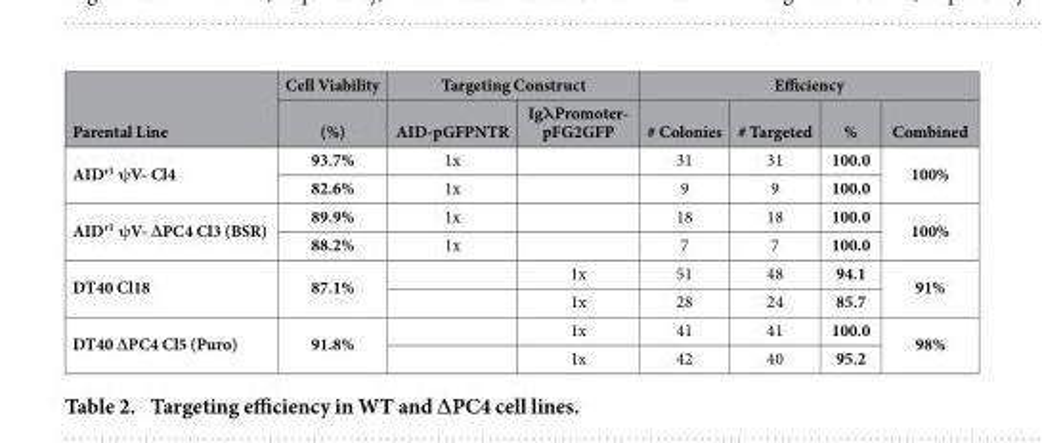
<table><thead><tr><td rowspan="2">Parental Line</td><td rowspan="2">Cell Viability (%)</td><td colspan="2">Targeting Construct</td><td colspan="4">Efficiency</td></tr><tr><td>AID-pGFPNTR</td><td>IgλPromoter- pFG2GFP</td><td># Colonies</td><td># Targeted</td><td>%</td><td>Combined</td></tr></thead><tbody><tr><td rowspan="2">AID<sup>r1</sup> ψV- Cl4</td><td>93.7%</td><td>1x</td><td></td><td>31</td><td>31</td><td>100.0</td><td rowspan="2">100%</td></tr><tr><td>82.6%</td><td>1x</td><td></td><td>9</td><td>9</td><td>100.0</td></tr><tr><td rowspan="2">AID<sup>r1</sup> ψV- ∆PC4 Cl3 (BSR)</td><td>89.9%</td><td>1x</td><td></td><td>18</td><td>18</td><td>100.0</td><td rowspan="2">100%</td></tr><tr><td>88.2%</td><td>1x</td><td></td><td>7</td><td>7</td><td>100.0</td></tr><tr><td rowspan="2">DT40 Cl18</td><td rowspan="2">87.1%</td><td></td><td>1x</td><td>51</td><td>48</td><td>94.1</td><td rowspan="2">91%</td></tr><tr><td></td><td>1x</td><td>28</td><td>24</td><td>85.7</td></tr><tr><td rowspan="2">DT40 ∆PC4 Cl5 (Puro)</td><td rowspan="2">91.8%</td><td></td><td>1x</td><td>41</td><td>41</td><td>100.0</td><td rowspan="2">98%</td></tr><tr><td></td><td>1x</td><td>42</td><td>40</td><td>95.2</td></tr></tbody></table>